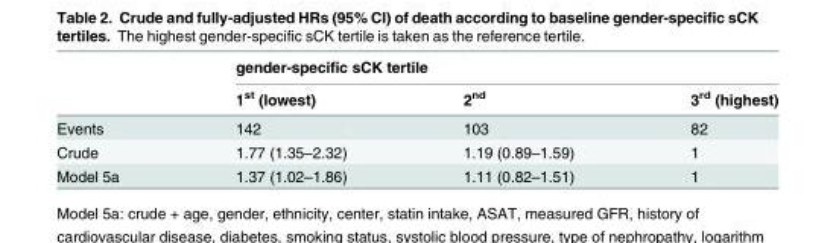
<table><thead><tr><td rowspan="2"></td><td colspan="3">gender-specific sCK tertile</td></tr><tr><td>1<sup>st</sup> (lowest)</td><td>2<sup>nd</sup></td><td>3<sup>rd</sup> (highest)</td></tr></thead><tbody><tr><td>Events</td><td>142</td><td>103</td><td>82</td></tr><tr><td>Crude</td><td>1.77 (1.35–2.32)</td><td>1.19 (0.89–1.59)</td><td>1</td></tr><tr><td>Model 5a</td><td>1.37 (1.02–1.86)</td><td>1.11 (0.82–1.51)</td><td>1</td></tr></tbody></table>